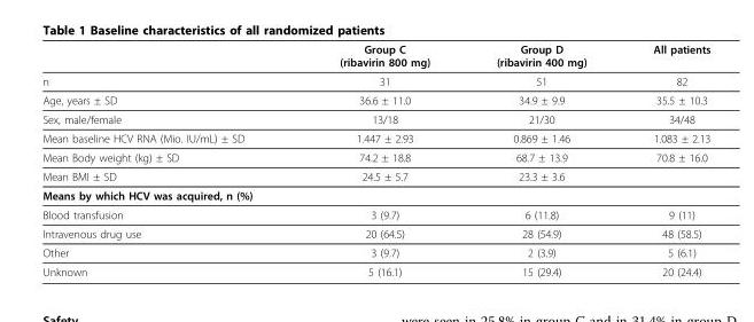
<table><thead><tr><td></td><td>Group C (ribavirin 800 mg)</td><td>Group D (ribavirin 400 mg)</td><td>All patients</td></tr></thead><tbody><tr><td>n</td><td>31</td><td>51</td><td>82</td></tr><tr><td>Age, years ± SD</td><td>36.6 ± 11.0</td><td>34.9 ± 9.9</td><td>35.5 ± 10.3</td></tr><tr><td>Sex, male/female</td><td>13/18</td><td>21/30</td><td>34/48</td></tr><tr><td>Mean baseline HCV RNA (Mio. IU/mL) ± SD</td><td>1.447 ± 2.93</td><td>0.869 ± 1.46</td><td>1.083 ± 2.13</td></tr><tr><td>Mean Body weight (kg) ± SD</td><td>74.2 ± 18.8</td><td>68.7 ± 13.9</td><td>70.8 ± 16.0</td></tr><tr><td>Mean BMI ± SD</td><td>24.5 ± 5.7</td><td>23.3 ± 3.6</td><td></td></tr><tr><td colspan="4">Means by which HCV was acquired, n (%)</td></tr><tr><td>Blood transfusion</td><td>3 (9.7)</td><td>6 (11.8)</td><td>9 (11)</td></tr><tr><td>Intravenous drug use</td><td>20 (64.5)</td><td>28 (54.9)</td><td>48 (58.5)</td></tr><tr><td>Other</td><td>3 (9.7)</td><td>2 (3.9)</td><td>5 (6.1)</td></tr><tr><td>Unknown</td><td>5 (16.1)</td><td>15 (29.4)</td><td>20 (24.4)</td></tr></tbody></table>